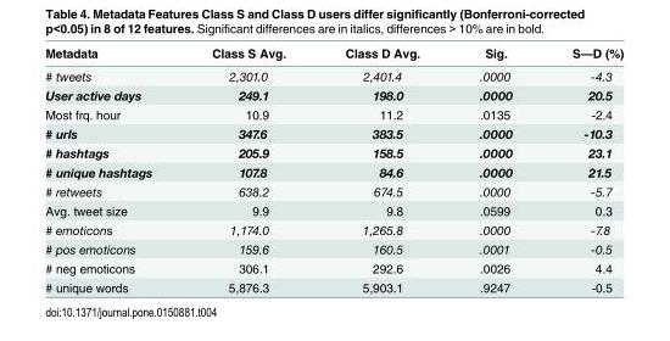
<table><thead><tr><td>Metadata</td><td>Class S Avg.</td><td>Class D Avg.</td><td>Sig.</td><td>S—D (%)</td></tr></thead><tbody><tr><td># tweets</td><td>2,301.0</td><td>2,401.4</td><td>.0000</td><td>-4.3</td></tr><tr><td>User active days</td><td>249.1</td><td>198.0</td><td>.0000</td><td>20.5</td></tr><tr><td>Most frq. hour</td><td>10.9</td><td>11.2</td><td>.0135</td><td>-2.4</td></tr><tr><td># urls</td><td>347.6</td><td>383.5</td><td>.0000</td><td>-10.3</td></tr><tr><td># hashtags</td><td>205.9</td><td>158.5</td><td>.0000</td><td>23.1</td></tr><tr><td># unique hashtags</td><td>107.8</td><td>84.6</td><td>.0000</td><td>21.5</td></tr><tr><td># retweets</td><td>638.2</td><td>674.5</td><td>.0000</td><td>-5.7</td></tr><tr><td>Avg. tweet size</td><td>9.9</td><td>9.8</td><td>.0599</td><td>0.3</td></tr><tr><td># emoticons</td><td>1,174.0</td><td>1,265.8</td><td>.0000</td><td>-7.8</td></tr><tr><td># pos emoticons</td><td>159.6</td><td>160.5</td><td>.0001</td><td>-0.5</td></tr><tr><td># neg emoticons</td><td>306.1</td><td>292.6</td><td>.0026</td><td>4.4</td></tr><tr><td># unique words</td><td>5,876.3</td><td>5,903.1</td><td>.9247</td><td>-0.5</td></tr></tbody></table>